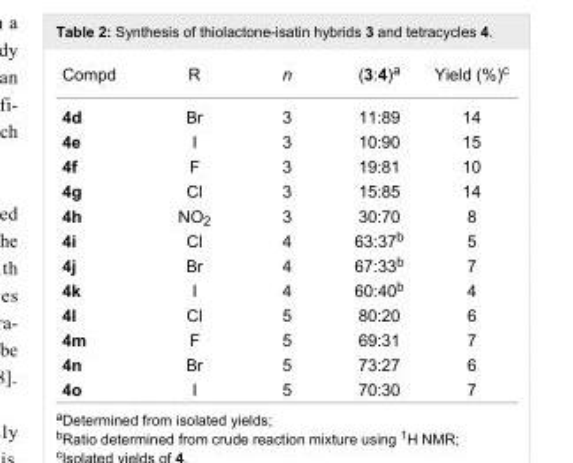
<table><tbody><tr><td>Compd</td><td>R</td><td>n</td><td>(3:4)<sup>a</sup></td><td>Yield (%)<sup>c</sup></td></tr><tr><td>4d</td><td>Br</td><td>3</td><td>11:89</td><td>14</td></tr><tr><td>4e</td><td>I</td><td>3</td><td>10:90</td><td>15</td></tr><tr><td>4f</td><td>F</td><td>3</td><td>19:81</td><td>10</td></tr><tr><td>4g</td><td>Cl</td><td>3</td><td>15:85</td><td>14</td></tr><tr><td>4h</td><td>NO<sub>2</sub></td><td>3</td><td>30:70</td><td>8</td></tr><tr><td>4i</td><td>Cl</td><td>4</td><td>63:37<sup>b</sup></td><td>5</td></tr><tr><td>4j</td><td>Br</td><td>4</td><td>67:33<sup>b</sup></td><td>7</td></tr><tr><td>4k</td><td>I</td><td>4</td><td>60:40<sup>b</sup></td><td>4</td></tr><tr><td>4l</td><td>Cl</td><td>5</td><td>80:20</td><td>6</td></tr><tr><td>4m</td><td>F</td><td>5</td><td>69:31</td><td>7</td></tr><tr><td>4n</td><td>Br</td><td>5</td><td>73:27</td><td>6</td></tr><tr><td>4o</td><td>I</td><td>5</td><td>70:30</td><td>7</td></tr></tbody></table>